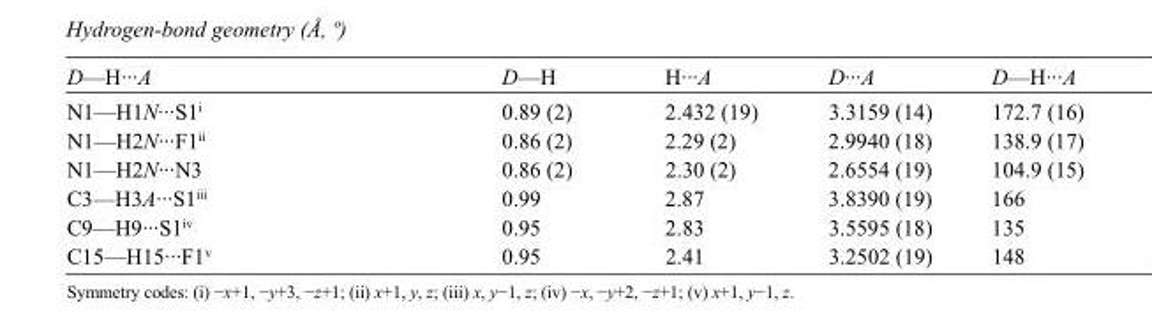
<table><tbody><tr><td>D—H···A</td><td>D—H</td><td>H···A</td><td>D···A</td><td>D—H···A</td></tr><tr><td>N1—H1N···S1<sup>i</sup></td><td>0.89 (2)</td><td>2.432 (19)</td><td>3.3159 (14)</td><td>172.7 (16)</td></tr><tr><td>N1—H2N···F1<sup>ii</sup></td><td>0.86 (2)</td><td>2.29 (2)</td><td>2.9940 (18)</td><td>138.9 (17)</td></tr><tr><td>N1—H2N···N3</td><td>0.86 (2)</td><td>2.30 (2)</td><td>2.6554 (19)</td><td>104.9 (15)</td></tr><tr><td>C3—H3A···S1<sup>iii</sup></td><td>0.99</td><td>2.87</td><td>3.8390 (19)</td><td>166</td></tr><tr><td>C9—H9···S1<sup>iv</sup></td><td>0.95</td><td>2.83</td><td>3.5595 (18)</td><td>135</td></tr><tr><td>C15—H15···F1<sup>v</sup></td><td>0.95</td><td>2.41</td><td>3.2502 (19)</td><td>148</td></tr></tbody></table>